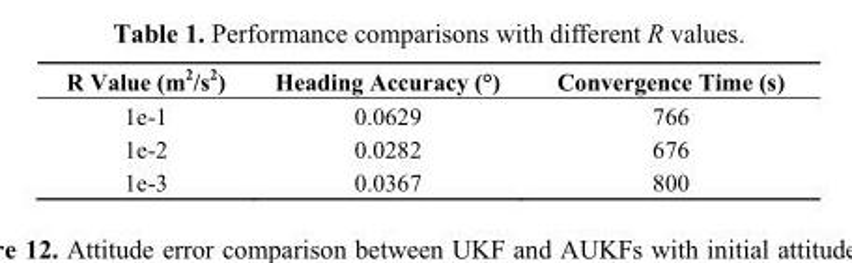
<table><thead><tr><td>R Value (m<sup>2</sup>/s<sup>2</sup>)</td><td>Heading Accuracy (°)</td><td>Convergence Time (s)</td></tr></thead><tbody><tr><td>1e-1</td><td>0.0629</td><td>766</td></tr><tr><td>1e-2</td><td>0.0282</td><td>676</td></tr><tr><td>1e-3</td><td>0.0367</td><td>800</td></tr></tbody></table>